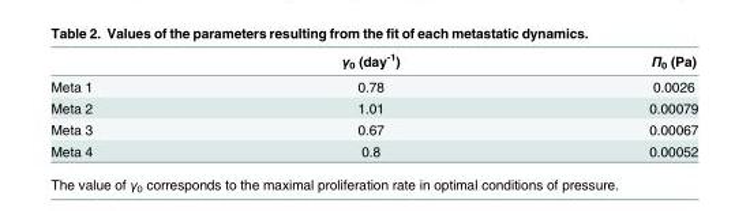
<table><thead><tr><td></td><td>γ<sub>0</sub> (day<sup>-1</sup>)</td><td>Π<sub>0</sub> (Pa)</td></tr></thead><tbody><tr><td>Meta 1</td><td>0.78</td><td>0.0026</td></tr><tr><td>Meta 2</td><td>1.01</td><td>0.00079</td></tr><tr><td>Meta 3</td><td>0.67</td><td>0.00067</td></tr><tr><td>Meta 4</td><td>0.8</td><td>0.00052</td></tr></tbody></table>